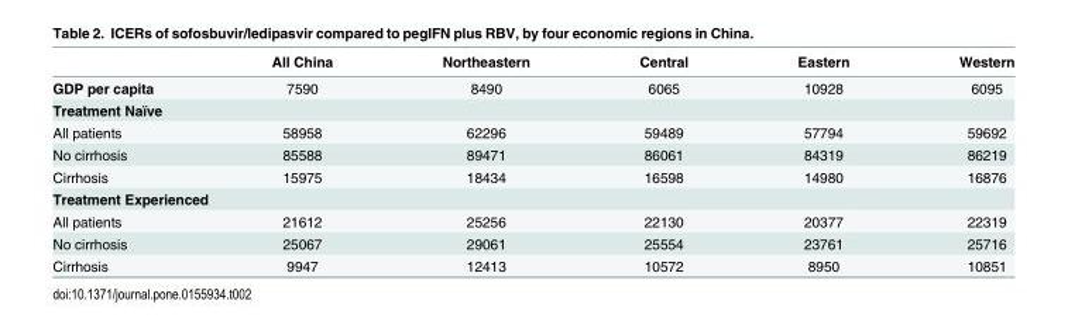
<table><thead><tr><td></td><td>All China</td><td>Northeastern</td><td>Central</td><td>Eastern</td><td>Western</td></tr></thead><tbody><tr><td>GDP per capita</td><td>7590</td><td>8490</td><td>6065</td><td>10928</td><td>6095</td></tr><tr><td colspan="6">Treatment Naïve</td></tr><tr><td>All patients</td><td>58958</td><td>62296</td><td>59489</td><td>57794</td><td>59692</td></tr><tr><td>No cirrhosis</td><td>85588</td><td>89471</td><td>86061</td><td>84319</td><td>86219</td></tr><tr><td>Cirrhosis</td><td>15975</td><td>18434</td><td>16598</td><td>14980</td><td>16876</td></tr><tr><td colspan="6">Treatment Experienced</td></tr><tr><td>All patients</td><td>21612</td><td>25256</td><td>22130</td><td>20377</td><td>22319</td></tr><tr><td>No cirrhosis</td><td>25067</td><td>29061</td><td>25554</td><td>23761</td><td>25716</td></tr><tr><td>Cirrhosis</td><td>9947</td><td>12413</td><td>10572</td><td>8950</td><td>10851</td></tr></tbody></table>